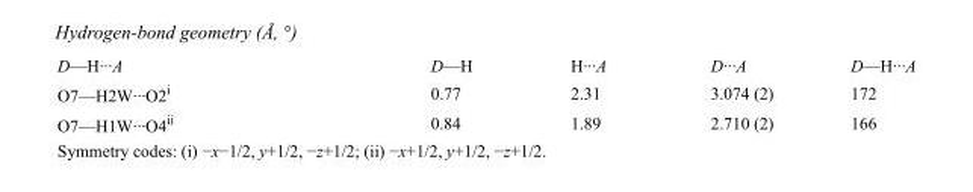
<table><tbody><tr><td>D—H···A</td><td>D—H</td><td>H···A</td><td>D···A</td><td>D—H···A</td></tr><tr><td>O7—H2W···O2<sup>i</sup></td><td>0.77</td><td>2.31</td><td>3.074 (2)</td><td>172</td></tr><tr><td>O7—H1W···O4<sup>ii</sup></td><td>0.84</td><td>1.89</td><td>2.710 (2)</td><td>166</td></tr></tbody></table>